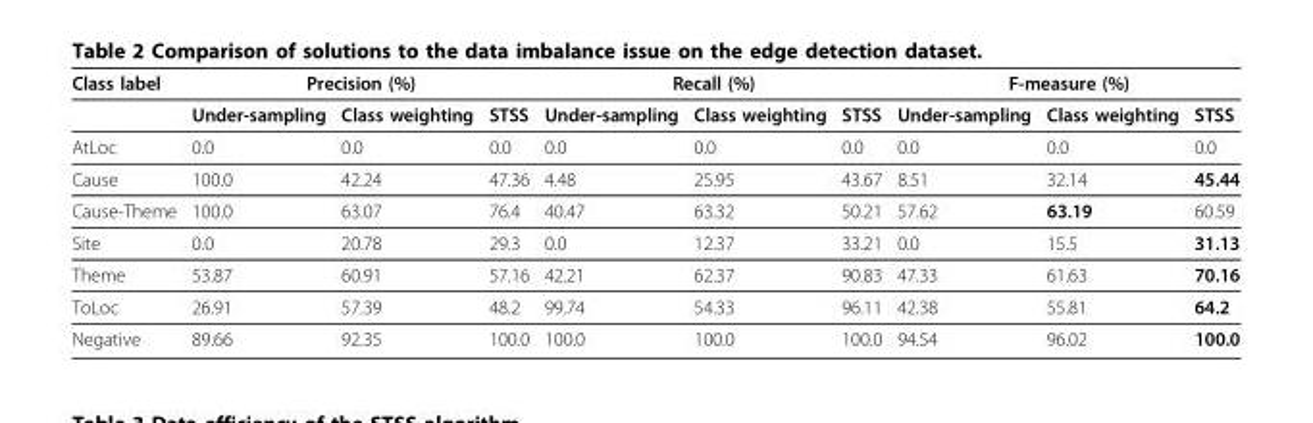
<table><thead><tr><td rowspan="2">Class label</td><td colspan="3">Precision (%)</td><td colspan="3">Recall (%)</td><td colspan="3">F-measure (%)</td></tr><tr><td>Under-sampling</td><td>Class weighting</td><td>STSS</td><td>Under-sampling</td><td>Class weighting</td><td>STSS</td><td>Under-sampling</td><td>Class weighting</td><td>STSS</td></tr></thead><tbody><tr><td>AtLoc</td><td>0.0</td><td>0.0</td><td>0.0</td><td>0.0</td><td>0.0</td><td>0.0</td><td>0.0</td><td>0.0</td><td>0.0</td></tr><tr><td>Cause</td><td>100.0</td><td>42.24</td><td>47.36</td><td>4.48</td><td>25.95</td><td>43.67</td><td>8.51</td><td>32.14</td><td>45.44</td></tr><tr><td>Cause-Theme</td><td>100.0</td><td>63.07</td><td>76.4</td><td>40.47</td><td>63.32</td><td>50.21</td><td>57.62</td><td>63.19</td><td>60.59</td></tr><tr><td>Site</td><td>0.0</td><td>20.78</td><td>29.3</td><td>0.0</td><td>12.37</td><td>33.21</td><td>0.0</td><td>15.5</td><td>31.13</td></tr><tr><td>Theme</td><td>53.87</td><td>60.91</td><td>57.16</td><td>42.21</td><td>62.37</td><td>90.83</td><td>47.33</td><td>61.63</td><td>70.16</td></tr><tr><td>ToLoc</td><td>26.91</td><td>57.39</td><td>48.2</td><td>99.74</td><td>54.33</td><td>96.11</td><td>42.38</td><td>55.81</td><td>64.2</td></tr><tr><td>Negative</td><td>89.66</td><td>92.35</td><td>100.0</td><td>100.0</td><td>100.0</td><td>100.0</td><td>94.54</td><td>96.02</td><td>100.0</td></tr></tbody></table>